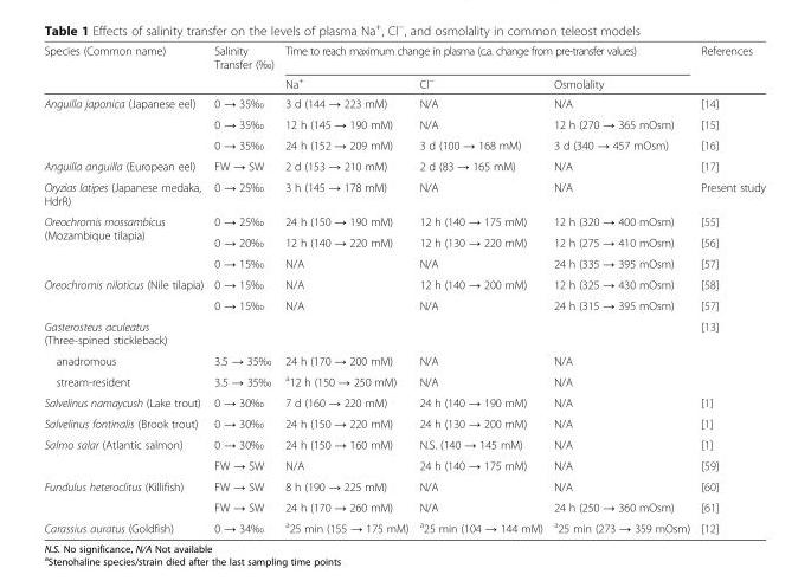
<table><thead><tr><td rowspan="2">Species (Common name)</td><td rowspan="2">Salinity Transfer (‰)</td><td colspan="3">Time to reach maximum change in plasma (c.a. change from pre-transfer values)</td><td rowspan="2">References</td></tr><tr><td>Na<sup>+</sup></td><td>Cl<sup>−</sup></td><td>Osmolality</td></tr></thead><tbody><tr><td rowspan="3">Anguilla japonica (Japanese eel)</td><td>0 → 35‰</td><td>3 d (144 → 223 mM)</td><td>N/A</td><td>N/A</td><td>[14]</td></tr><tr><td>0 → 35‰</td><td>12 h (145 → 190 mM)</td><td>N/A</td><td>12 h (270 → 365 mOsm)</td><td>[15]</td></tr><tr><td>0 → 35‰</td><td>24 h (152 → 209 mM)</td><td>3 d (100 → 168 mM)</td><td>3 d (340 → 457 mOsm)</td><td>[16]</td></tr><tr><td>Anguilla anguilla (European eel)</td><td>FW → SW</td><td>2 d (153 → 210 mM)</td><td>2 d (83 → 165 mM)</td><td>N/A</td><td>[17]</td></tr><tr><td>Oryzias latipes (Japanese medaka, HdrR)</td><td>0 → 25‰</td><td>3 h (145 → 178 mM)</td><td>N/A</td><td>N/A</td><td>Present study</td></tr><tr><td rowspan="3">Oreochromis mossambicus (Mozambique tilapia)</td><td>0 → 25‰</td><td>24 h (150 → 190 mM)</td><td>12 h (140 → 175 mM)</td><td>12 h (320 → 400 mOsm)</td><td>[55]</td></tr><tr><td>0 → 20‰</td><td>12 h (140 → 220 mM)</td><td>12 h (130 → 220 mM)</td><td>12 h (275 → 410 mOsm)</td><td>[56]</td></tr><tr><td>0 → 15‰</td><td>N/A</td><td>N/A</td><td>24 h (335 → 395 mOsm)</td><td>[57]</td></tr><tr><td rowspan="2">Oreochromis niloticus (Nile tilapia)</td><td>0 → 15‰</td><td>N/A</td><td>12 h (140 → 200 mM)</td><td>12 h (325 → 430 mOsm)</td><td>[58]</td></tr><tr><td>0 → 15‰</td><td>N/A</td><td>N/A</td><td>24 h (315 → 395 mOsm)</td><td>[57]</td></tr><tr><td>Gasterosteus aculeatus (Three-spined stickleback)</td><td></td><td></td><td></td><td></td><td>[13]</td></tr><tr><td>anadromous</td><td>3.5 → 35‰</td><td>24 h (170 → 200 mM)</td><td>N/A</td><td>N/A</td><td></td></tr><tr><td>stream-resident</td><td>3.5 → 35‰</td><td><sup>a</sup>12 h (150 → 250 mM)</td><td>N/A</td><td>N/A</td><td></td></tr><tr><td>Salvelinus namaycush (Lake trout)</td><td>0 → 30‰</td><td>7 d (160 → 220 mM)</td><td>24 h (140 → 190 mM)</td><td>N/A</td><td>[1]</td></tr><tr><td>Salvelinus fontinalis (Brook trout)</td><td>0 → 30‰</td><td>24 h (150 → 220 mM)</td><td>24 h (130 → 200 mM)</td><td>N/A</td><td>[1]</td></tr><tr><td rowspan="2">Salmo salar (Atlantic salmon)</td><td>0 → 30‰</td><td>24 h (150 → 160 mM)</td><td>N.S. (140 → 145 mM)</td><td>N/A</td><td>[1]</td></tr><tr><td>FW → SW</td><td>N/A</td><td>24 h (140 → 175 mM)</td><td>N/A</td><td>[59]</td></tr><tr><td rowspan="2">Fundulus heteroclitus (Killifish)</td><td>FW → SW</td><td>8 h (190 → 225 mM)</td><td>N/A</td><td>N/A</td><td>[60]</td></tr><tr><td>FW → SW</td><td>24 h (170 → 260 mM)</td><td>N/A</td><td>24 h (250 → 360 mOsm)</td><td>[61]</td></tr><tr><td>Carassius auratus (Goldfish)</td><td>0 → 34‰</td><td><sup>a</sup>25 min (155 → 175 mM)</td><td><sup>a</sup>25 min (104 → 144 mM)</td><td><sup>a</sup>25 min (273 → 359 mOsm)</td><td>[12]</td></tr></tbody></table>